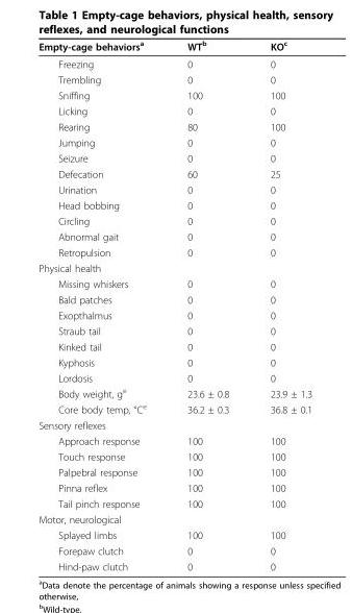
<table><thead><tr><td>Empty-cage behaviors<sup>a</sup></td><td>WT<sup>b</sup></td><td>KO<sup>c</sup></td></tr></thead><tbody><tr><td>Freezing</td><td>0</td><td>0</td></tr><tr><td>Trembling</td><td>0</td><td>0</td></tr><tr><td>Sniffing</td><td>100</td><td>100</td></tr><tr><td>Licking</td><td>0</td><td>0</td></tr><tr><td>Rearing</td><td>80</td><td>100</td></tr><tr><td>Jumping</td><td>0</td><td>0</td></tr><tr><td>Seizure</td><td>0</td><td>0</td></tr><tr><td>Defecation</td><td>60</td><td>25</td></tr><tr><td>Urination</td><td>0</td><td>0</td></tr><tr><td>Head bobbing</td><td>0</td><td>0</td></tr><tr><td>Circling</td><td>0</td><td>0</td></tr><tr><td>Abnormal gait</td><td>0</td><td>0</td></tr><tr><td>Retropulsion</td><td>0</td><td>0</td></tr><tr><td colspan="3">Physical health</td></tr><tr><td>Missing whiskers</td><td>0</td><td>0</td></tr><tr><td>Bald patches</td><td>0</td><td>0</td></tr><tr><td>Exopthalmus</td><td>0</td><td>0</td></tr><tr><td>Straub tail</td><td>0</td><td>0</td></tr><tr><td>Kinked tail</td><td>0</td><td>0</td></tr><tr><td>Kyphosis</td><td>0</td><td>0</td></tr><tr><td>Lordosis</td><td>0</td><td>0</td></tr><tr><td>Body weight, g<sup>e</sup></td><td>23.6 ± 0.8</td><td>23.9 ± 1.3</td></tr><tr><td>Core body temp, °C<sup>e</sup></td><td>36.2 ± 0.3</td><td>36.8 ± 0.1</td></tr><tr><td colspan="3">Sensory reflexes</td></tr><tr><td>Approach response</td><td>100</td><td>100</td></tr><tr><td>Touch response</td><td>100</td><td>100</td></tr><tr><td>Palpebral response</td><td>100</td><td>100</td></tr><tr><td>Pinna reflex</td><td>100</td><td>100</td></tr><tr><td>Tail pinch response</td><td>100</td><td>100</td></tr><tr><td colspan="3">Motor, neurological</td></tr><tr><td>Splayed limbs</td><td>100</td><td>100</td></tr><tr><td>Forepaw clutch</td><td>0</td><td>0</td></tr><tr><td>Hind-paw clutch</td><td>0</td><td>0</td></tr></tbody></table>